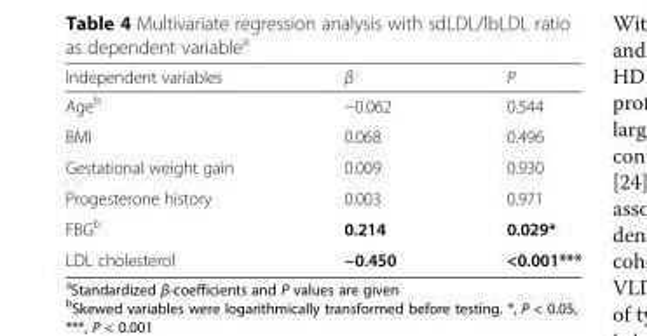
<table><thead><tr><td>Independent variables</td><td>β</td><td>P</td></tr></thead><tbody><tr><td>Age<sup>b</sup></td><td>−0.062</td><td>0.544</td></tr><tr><td>BMI</td><td>0.068</td><td>0.496</td></tr><tr><td>Gestational weight gain</td><td>0.009</td><td>0.930</td></tr><tr><td>Progesterone history</td><td>0.003</td><td>0.971</td></tr><tr><td>FBG<sup>b</sup></td><td>0.214</td><td>0.029*</td></tr><tr><td>LDL cholesterol</td><td>−0.450</td><td>&lt;0.001***</td></tr></tbody></table>